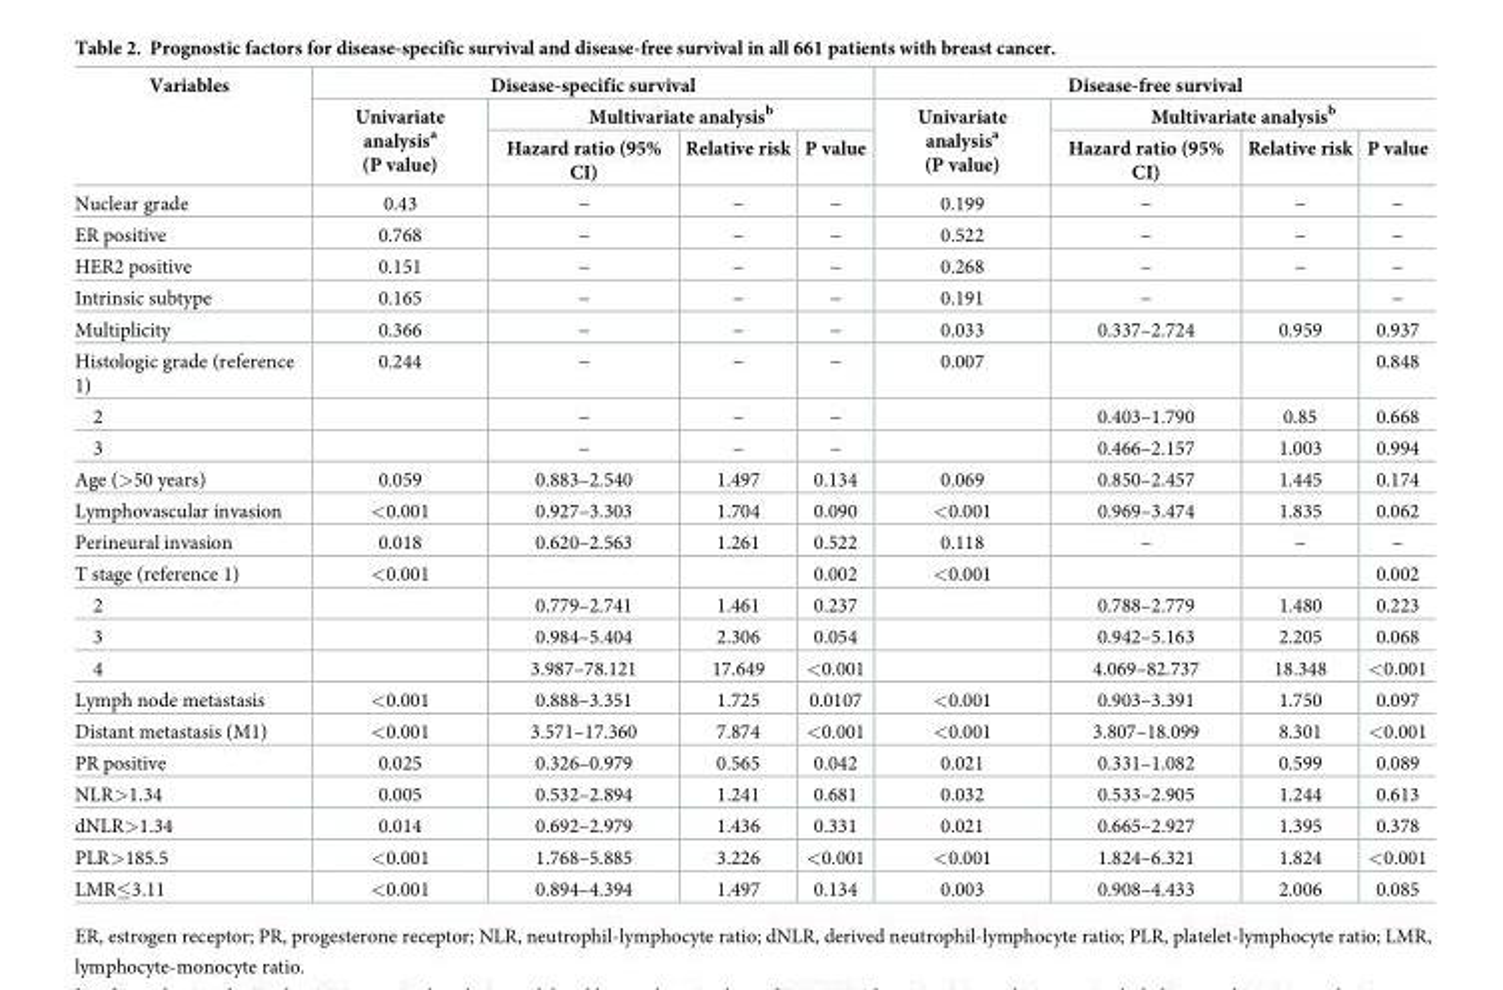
<table><thead><tr><td rowspan="3">Variables</td><td colspan="4">Disease-specific survival</td><td colspan="4">Disease-free survival</td></tr><tr><td rowspan="2">Univariate analysis<sup>a</sup> (P value)</td><td colspan="3">Multivariate analysis<sup>b</sup></td><td rowspan="2">Univariate analysis<sup>a</sup> (P value)</td><td colspan="3">Multivariate analysis<sup>b</sup></td></tr><tr><td>Hazard ratio (95% CI)</td><td>Relative risk</td><td>P value</td><td>Hazard ratio (95% CI)</td><td>Relative risk</td><td>P value</td></tr></thead><tbody><tr><td>Nuclear grade</td><td>0.43</td><td>−</td><td>−</td><td>−</td><td>0.199</td><td>−</td><td>−</td><td>−</td></tr><tr><td>ER positive</td><td>0.768</td><td>−</td><td>−</td><td>−</td><td>0.522</td><td>−</td><td>−</td><td>−</td></tr><tr><td>HER2 positive</td><td>0.151</td><td>−</td><td>−</td><td>−</td><td>0.268</td><td>−</td><td>−</td><td>−</td></tr><tr><td>Intrinsic subtype</td><td>0.165</td><td>−</td><td>−</td><td>−</td><td>0.191</td><td>−</td><td></td><td>−</td></tr><tr><td>Multiplicity</td><td>0.366</td><td>−</td><td>−</td><td>−</td><td>0.033</td><td>0.337–2.724</td><td>0.959</td><td>0.937</td></tr><tr><td>Histologic grade (reference 1)</td><td>0.244</td><td>−</td><td>−</td><td>−</td><td>0.007</td><td></td><td></td><td>0.848</td></tr><tr><td>2</td><td></td><td>−</td><td>−</td><td>−</td><td></td><td>0.403–1.790</td><td>0.85</td><td>0.668</td></tr><tr><td>3</td><td></td><td>−</td><td>−</td><td>−</td><td></td><td>0.466–2.157</td><td>1.003</td><td>0.994</td></tr><tr><td>Age (&gt;50 years)</td><td>0.059</td><td>0.883–2.540</td><td>1.497</td><td>0.134</td><td>0.069</td><td>0.850–2.457</td><td>1.445</td><td>0.174</td></tr><tr><td>Lymphovascular invasion</td><td>&lt;0.001</td><td>0.927–3.303</td><td>1.704</td><td>0.090</td><td>&lt;0.001</td><td>0.969–3.474</td><td>1.835</td><td>0.062</td></tr><tr><td>Perineural invasion</td><td>0.018</td><td>0.620–2.563</td><td>1.261</td><td>0.522</td><td>0.118</td><td>−</td><td>−</td><td>−</td></tr><tr><td>T stage (reference 1)</td><td>&lt;0.001</td><td></td><td></td><td>0.002</td><td>&lt;0.001</td><td></td><td></td><td>0.002</td></tr><tr><td>2</td><td></td><td>0.779–2.741</td><td>1.461</td><td>0.237</td><td></td><td>0.788–2.779</td><td>1.480</td><td>0.223</td></tr><tr><td>3</td><td></td><td>0.984–5.404</td><td>2.306</td><td>0.054</td><td></td><td>0.942–5.163</td><td>2.205</td><td>0.068</td></tr><tr><td>4</td><td></td><td>3.987–78.121</td><td>17.649</td><td>&lt;0.001</td><td></td><td>4.069–82.737</td><td>18.348</td><td>&lt;0.001</td></tr><tr><td>Lymph node metastasis</td><td>&lt;0.001</td><td>0.888–3.351</td><td>1.725</td><td>0.0107</td><td>&lt;0.001</td><td>0.903–3.391</td><td>1.750</td><td>0.097</td></tr><tr><td>Distant metastasis (M1)</td><td>&lt;0.001</td><td>3.571–17.360</td><td>7.874</td><td>&lt;0.001</td><td>&lt;0.001</td><td>3.807–18.099</td><td>8.301</td><td>&lt;0.001</td></tr><tr><td>PR positive</td><td>0.025</td><td>0.326–0.979</td><td>0.565</td><td>0.042</td><td>0.021</td><td>0.331–1.082</td><td>0.599</td><td>0.089</td></tr><tr><td>NLR&gt;1.34</td><td>0.005</td><td>0.532–2.894</td><td>1.241</td><td>0.681</td><td>0.032</td><td>0.533–2.905</td><td>1.244</td><td>0.613</td></tr><tr><td>dNLR&gt;1.34</td><td>0.014</td><td>0.692–2.979</td><td>1.436</td><td>0.331</td><td>0.021</td><td>0.665–2.927</td><td>1.395</td><td>0.378</td></tr><tr><td>PLR&gt;185.5</td><td>&lt;0.001</td><td>1.768–5.885</td><td>3.226</td><td>&lt;0.001</td><td>&lt;0.001</td><td>1.824–6.321</td><td>1.824</td><td>&lt;0.001</td></tr><tr><td>LMR≤3.11</td><td>&lt;0.001</td><td>0.894–4.394</td><td>1.497</td><td>0.134</td><td>0.003</td><td>0.908–4.433</td><td>2.006</td><td>0.085</td></tr></tbody></table>